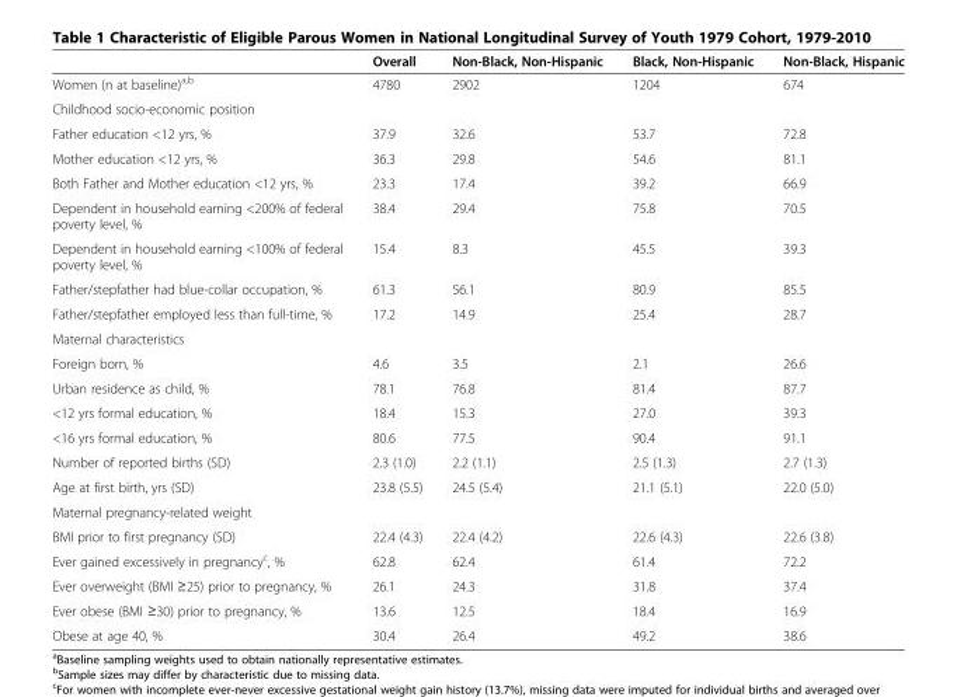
<table><thead><tr><td></td><td>Overall</td><td>Non-Black, Non-Hispanic</td><td>Black, Non-Hispanic</td><td>Non-Black, Hispanic</td></tr></thead><tbody><tr><td>Women (n at baseline)<sup>a,b</sup></td><td>4780</td><td>2902</td><td>1204</td><td>674</td></tr><tr><td colspan="5">Childhood socio-economic position</td></tr><tr><td>Father education &lt;12 yrs, %</td><td>37.9</td><td>32.6</td><td>53.7</td><td>72.8</td></tr><tr><td>Mother education &lt;12 yrs, %</td><td>36.3</td><td>29.8</td><td>54.6</td><td>81.1</td></tr><tr><td>Both Father and Mother education &lt;12 yrs, %</td><td>23.3</td><td>17.4</td><td>39.2</td><td>66.9</td></tr><tr><td>Dependent in household earning &lt;200% of federal poverty level, %</td><td>38.4</td><td>29.4</td><td>75.8</td><td>70.5</td></tr><tr><td>Dependent in household earning &lt;100% of federal poverty level, %</td><td>15.4</td><td>8.3</td><td>45.5</td><td>39.3</td></tr><tr><td>Father/stepfather had blue-collar occupation, %</td><td>61.3</td><td>56.1</td><td>80.9</td><td>85.5</td></tr><tr><td>Father/stepfather employed less than full-time, %</td><td>17.2</td><td>14.9</td><td>25.4</td><td>28.7</td></tr><tr><td colspan="5">Maternal characteristics</td></tr><tr><td>Foreign born, %</td><td>4.6</td><td>3.5</td><td>2.1</td><td>26.6</td></tr><tr><td>Urban residence as child, %</td><td>78.1</td><td>76.8</td><td>81.4</td><td>87.7</td></tr><tr><td>&lt;12 yrs formal education, %</td><td>18.4</td><td>15.3</td><td>27.0</td><td>39.3</td></tr><tr><td>&lt;16 yrs formal education, %</td><td>80.6</td><td>77.5</td><td>90.4</td><td>91.1</td></tr><tr><td>Number of reported births (SD)</td><td>2.3 (1.0)</td><td>2.2 (1.1)</td><td>2.5 (1.3)</td><td>2.7 (1.3)</td></tr><tr><td>Age at first birth, yrs (SD)</td><td>23.8 (5.5)</td><td>24.5 (5.4)</td><td>21.1 (5.1)</td><td>22.0 (5.0)</td></tr><tr><td colspan="5">Maternal pregnancy-related weight</td></tr><tr><td>BMI prior to first pregnancy (SD)</td><td>22.4 (4.3)</td><td>22.4 (4.2)</td><td>22.6 (4.3)</td><td>22.6 (3.8)</td></tr><tr><td>Ever gained excessively in pregnancy<sup>c</sup>, %</td><td>62.8</td><td>62.4</td><td>61.4</td><td>72.2</td></tr><tr><td>Ever overweight (BMI ≥25) prior to pregnancy, %</td><td>26.1</td><td>24.3</td><td>31.8</td><td>37.4</td></tr><tr><td>Ever obese (BMI ≥30) prior to pregnancy, %</td><td>13.6</td><td>12.5</td><td>18.4</td><td>16.9</td></tr><tr><td>Obese at age 40, %</td><td>30.4</td><td>26.4</td><td>49.2</td><td>38.6</td></tr></tbody></table>